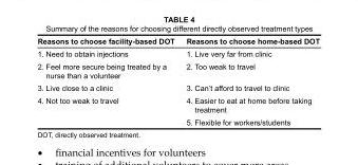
<table><thead><tr><td>Reasons to choose facility-based DOT</td><td>Reasons to choose home-based DOT</td></tr></thead><tbody><tr><td>1. Need to obtain injections</td><td>1. Live very far from clinic</td></tr><tr><td>2. Feel more secure being treated by a nurse than a volunteer</td><td>2. Too weak to travel</td></tr><tr><td>3. Live close to a clinic</td><td>3. Can’t afford to travel to clinic</td></tr><tr><td rowspan="2">4. Not too weak to travel</td><td>4. Easier to eat at home before taking treatment</td></tr><tr><td>5. Flexible for workers/students</td></tr></tbody></table>